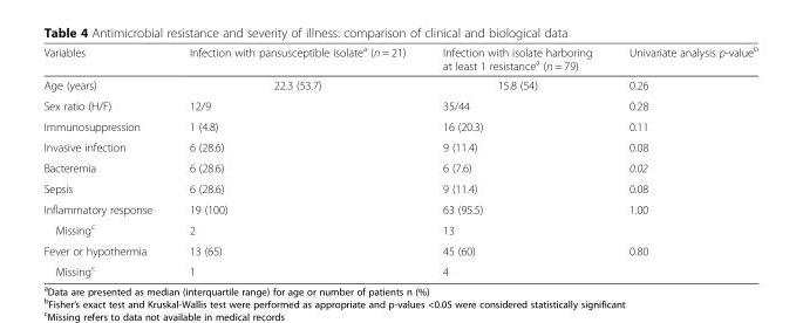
<table><thead><tr><td>Variables</td><td>Infection with pansusceptible isolate<sup>a</sup> (n = 21)</td><td>Infection with isolate harboring at least 1 resistance<sup>a</sup> (n = 79)</td><td>Univariate analysis p-value<sup>b</sup></td></tr></thead><tbody><tr><td>Age (years)</td><td>22.3 (53.7)</td><td>15.8 (54)</td><td>0.26</td></tr><tr><td>Sex ratio (H/F)</td><td>12/9</td><td>35/44</td><td>0.28</td></tr><tr><td>Immunosuppression</td><td>1 (4.8)</td><td>16 (20.3)</td><td>0.11</td></tr><tr><td>Invasive infection</td><td>6 (28.6)</td><td>9 (11.4)</td><td>0.08</td></tr><tr><td>Bacteremia</td><td>6 (28.6)</td><td>6 (7.6)</td><td>0.02</td></tr><tr><td>Sepsis</td><td>6 (28.6)</td><td>9 (11.4)</td><td>0.08</td></tr><tr><td>Inflammatory response</td><td>19 (100)</td><td>63 (95.5)</td><td>1.00</td></tr><tr><td>Missing<sup>c</sup></td><td>2</td><td>13</td><td></td></tr><tr><td>Fever or hypothermia</td><td>13 (65)</td><td>45 (60)</td><td>0.80</td></tr><tr><td>Missing<sup>c</sup></td><td>1</td><td>4</td><td></td></tr></tbody></table>